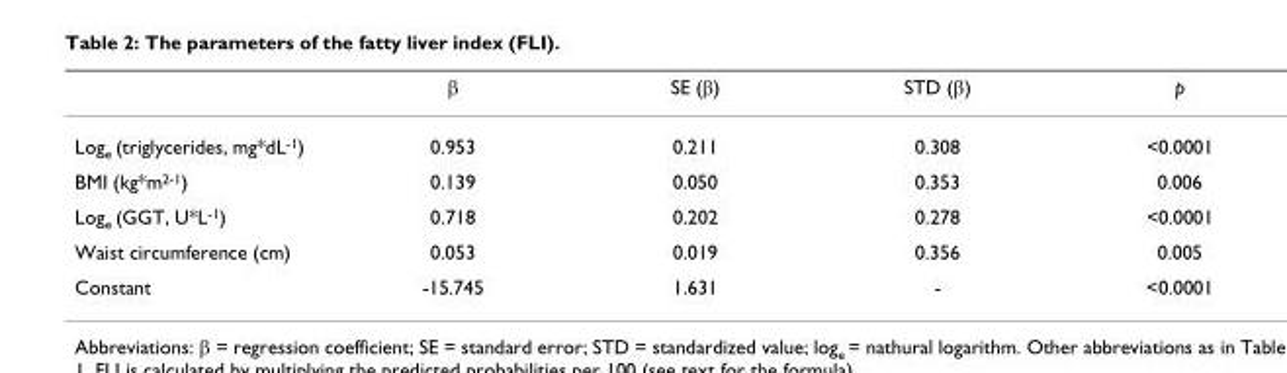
<table><thead><tr><td></td><td>β</td><td>SE (β)</td><td>STD (β)</td><td>p</td></tr></thead><tbody><tr><td>Loge (triglycerides, mg*dL-1)</td><td>0.953</td><td>0.211</td><td>0.308</td><td>&lt;0.0001</td></tr><tr><td>BMI (kg*m2-1)</td><td>0.139</td><td>0.050</td><td>0.353</td><td>0.006</td></tr><tr><td>Loge (GGT, U*L-1)</td><td>0.718</td><td>0.202</td><td>0.278</td><td>&lt;0.0001</td></tr><tr><td>Waist circumference (cm)</td><td>0.053</td><td>0.019</td><td>0.356</td><td>0.005</td></tr><tr><td>Constant</td><td>-15.745</td><td>1.631</td><td>-</td><td>&lt;0.0001</td></tr></tbody></table>